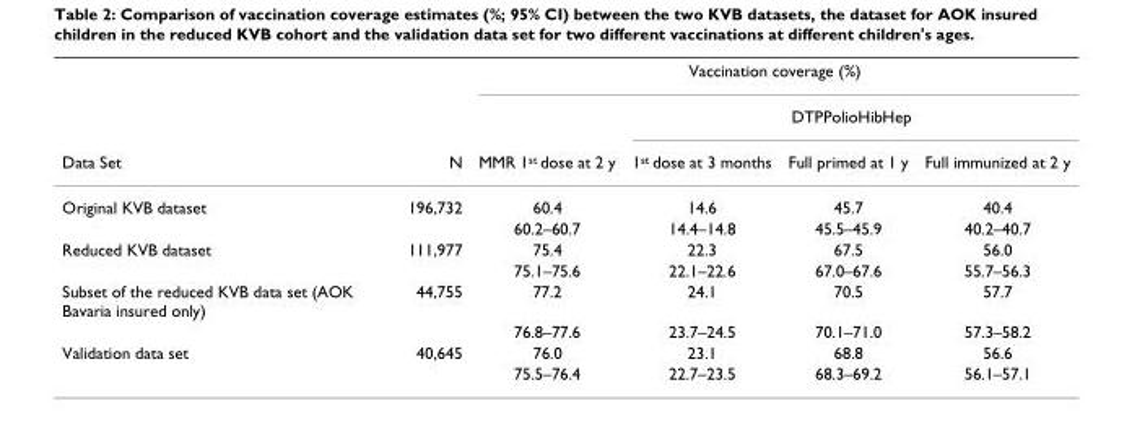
<table><thead><tr><td rowspan="3">Data Set</td><td rowspan="3">N</td><td colspan="4">Vaccination coverage (%)</td></tr><tr><td rowspan="2">MMR 1<sup>st</sup> dose at 2 y</td><td colspan="3">DTPPolioHibHep</td></tr><tr><td>1<sup>st</sup> dose at 3 months</td><td>Full primed at 1 y</td><td>Full immunized at 2 y</td></tr></thead><tbody><tr><td rowspan="2">Original KVB dataset</td><td>196,732</td><td>60.4</td><td>14.6</td><td>45.7</td><td>40.4</td></tr><tr><td></td><td>60.2–60.7</td><td>14.4–14.8</td><td>45.5–45.9</td><td>40.2–40.7</td></tr><tr><td rowspan="2">Reduced KVB dataset</td><td>111,977</td><td>75.4</td><td>22.3</td><td>67.5</td><td>56.0</td></tr><tr><td></td><td>75.1–75.6</td><td>22.1–22.6</td><td>67.0–67.6</td><td>55.7–56.3</td></tr><tr><td rowspan="2">Subset of the reduced KVB data set (AOK Bavaria insured only)</td><td>44,755</td><td>77.2</td><td>24.1</td><td>70.5</td><td>57.7</td></tr><tr><td></td><td>76.8–77.6</td><td>23.7–24.5</td><td>70.1–71.0</td><td>57.3–58.2</td></tr><tr><td rowspan="2">Validation data set</td><td>40,645</td><td>76.0</td><td>23.1</td><td>68.8</td><td>56.6</td></tr><tr><td></td><td>75.5–76.4</td><td>22.7–23.5</td><td>68.3–69.2</td><td>56.1–57.1</td></tr></tbody></table>